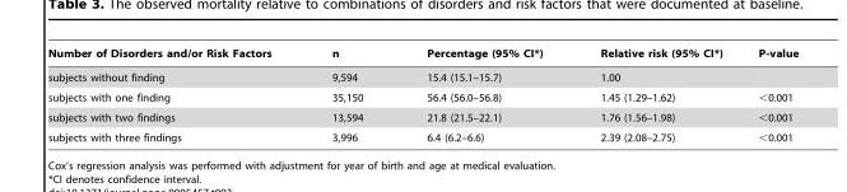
<table><thead><tr><td>Number of Disorders and/or Risk Factors</td><td>n</td><td>Percentage (95% CI*)</td><td>Relative risk (95% CI*)</td><td>P-value</td></tr></thead><tbody><tr><td>subjects without finding</td><td>9,594</td><td>15.4 (15.1–15.7)</td><td>1.00</td><td></td></tr><tr><td>subjects with one finding</td><td>35,150</td><td>56.4 (56.0–56.8)</td><td>1.45 (1.29–1.62)</td><td>&lt;0.001</td></tr><tr><td>subjects with two findings</td><td>13,594</td><td>21.8 (21.5–22.1)</td><td>1.76 (1.56–1.98)</td><td>&lt;0.001</td></tr><tr><td>subjects with three findings</td><td>3,996</td><td>6.4 (6.2–6.6)</td><td>2.39 (2.08–2.75)</td><td>&lt;0.001</td></tr></tbody></table>